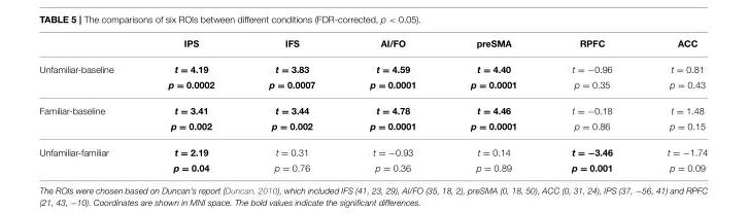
<table><thead><tr><td></td><td>IPS</td><td>IFS</td><td>AI/FO</td><td>preSMA</td><td>RPFC</td><td>ACC</td></tr></thead><tbody><tr><td rowspan="2">Unfamiliar-baseline</td><td>t = 4.19</td><td>t = 3.83</td><td>t = 4.59</td><td>t = 4.40</td><td>t = −0.96</td><td>t = 0.81</td></tr><tr><td>p = 0.0002</td><td>p = 0.0007</td><td>p = 0.0001</td><td>p = 0.0001</td><td>p = 0.35</td><td>p = 0.43</td></tr><tr><td rowspan="2">Familiar-baseline</td><td>t = 3.41</td><td>t = 3.44</td><td>t = 4.78</td><td>t = 4.46</td><td>t = −0.18</td><td>t = 1.48</td></tr><tr><td>p = 0.002</td><td>p = 0.002</td><td>p = 0.0001</td><td>p = 0.0001</td><td>p = 0.86</td><td>p = 0.15</td></tr><tr><td rowspan="2">Unfamiliar-familiar</td><td>t = 2.19</td><td>t = 0.31</td><td>t = −0.93</td><td>t = 0.14</td><td>t = −3.46</td><td>t = −1.74</td></tr><tr><td>p = 0.04</td><td>p = 0.76</td><td>p = 0.36</td><td>p = 0.89</td><td>p = 0.001</td><td>p = 0.09</td></tr></tbody></table>